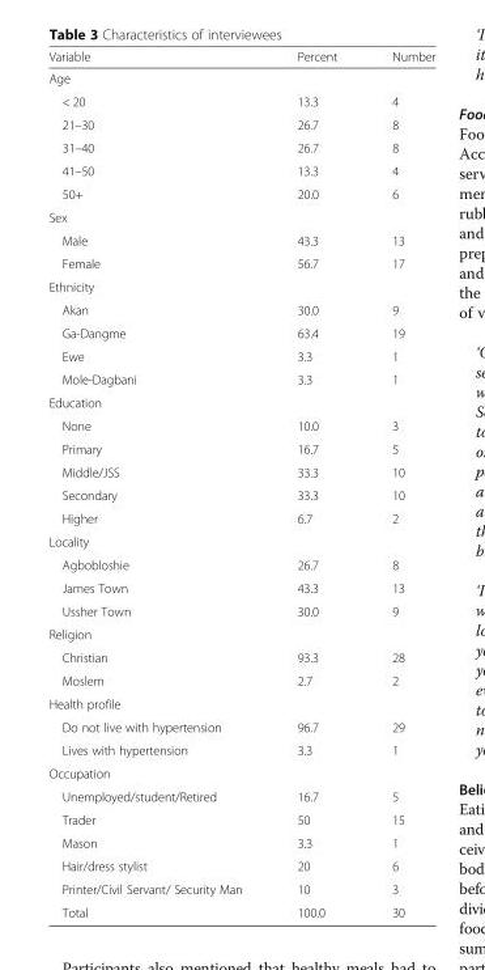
<table><thead><tr><td>Variable</td><td>Percent</td><td>Number</td></tr></thead><tbody><tr><td colspan="3">Age</td></tr><tr><td>&lt; 20</td><td>13.3</td><td>4</td></tr><tr><td>21–30</td><td>26.7</td><td>8</td></tr><tr><td>31–40</td><td>26.7</td><td>8</td></tr><tr><td>41–50</td><td>13.3</td><td>4</td></tr><tr><td>50+</td><td>20.0</td><td>6</td></tr><tr><td colspan="3">Sex</td></tr><tr><td>Male</td><td>43.3</td><td>13</td></tr><tr><td>Female</td><td>56.7</td><td>17</td></tr><tr><td colspan="3">Ethnicity</td></tr><tr><td>Akan</td><td>30.0</td><td>9</td></tr><tr><td>Ga-Dangme</td><td>63.4</td><td>19</td></tr><tr><td>Ewe</td><td>3.3</td><td>1</td></tr><tr><td>Mole-Dagbani</td><td>3.3</td><td>1</td></tr><tr><td colspan="3">Education</td></tr><tr><td>None</td><td>10.0</td><td>3</td></tr><tr><td>Primary</td><td>16.7</td><td>5</td></tr><tr><td>Middle/JSS</td><td>33.3</td><td>10</td></tr><tr><td>Secondary</td><td>33.3</td><td>10</td></tr><tr><td>Higher</td><td>6.7</td><td>2</td></tr><tr><td colspan="3">Locality</td></tr><tr><td>Agbobloshie</td><td>26.7</td><td>8</td></tr><tr><td>James Town</td><td>43.3</td><td>13</td></tr><tr><td>Ussher Town</td><td>30.0</td><td>9</td></tr><tr><td colspan="3">Religion</td></tr><tr><td>Christian</td><td>93.3</td><td>28</td></tr><tr><td>Moslem</td><td>2.7</td><td>2</td></tr><tr><td colspan="3">Health profile</td></tr><tr><td>Do not live with hypertension</td><td>96.7</td><td>29</td></tr><tr><td>Lives with hypertension</td><td>3.3</td><td>1</td></tr><tr><td colspan="3">Occupation</td></tr><tr><td>Unemployed/student/Retired</td><td>16.7</td><td>5</td></tr><tr><td>Trader</td><td>50</td><td>15</td></tr><tr><td>Mason</td><td>3.3</td><td>1</td></tr><tr><td>Hair/dress stylist</td><td>20</td><td>6</td></tr><tr><td>Printer/Civil Servant/ Security Man</td><td>10</td><td>3</td></tr><tr><td>Total</td><td>100.0</td><td>30</td></tr></tbody></table>